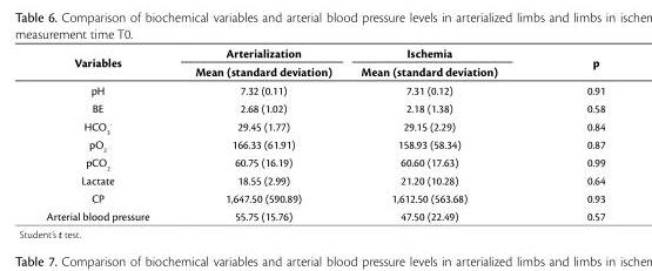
<table><thead><tr><td rowspan="2">Variables</td><td rowspan="2">Arterialization Mean (standard deviation)</td><td rowspan="2">Ischemia Mean (standard deviation)</td><td rowspan="2">p</td></tr><tr></tr></thead><tbody><tr><td>pH</td><td>7.32 (0.11)</td><td>7.31 (0.12)</td><td>0.91</td></tr><tr><td>BE</td><td>2.68 (1.02)</td><td>2.18 (1.38)</td><td>0.58</td></tr><tr><td>HCO3 -</td><td>29.45 (1.77)</td><td>29.15 (2.29)</td><td>0.84</td></tr><tr><td>pO2</td><td>166.33 (61.91)</td><td>158.93 (58.34)</td><td>0.87</td></tr><tr><td>pCO2</td><td>60.75 (16.19)</td><td>60.60 (17.63)</td><td>0.99</td></tr><tr><td>Lactate</td><td>18.55 (2.99)</td><td>21.20 (10.28)</td><td>0.64</td></tr><tr><td>CP</td><td>1,647.50 (590.89)</td><td>1,612.50 (563.68)</td><td>0.93</td></tr><tr><td>Arterial blood pressure</td><td>55.75 (15.76)</td><td>47.50 (22.49)</td><td>0.57</td></tr></tbody></table>